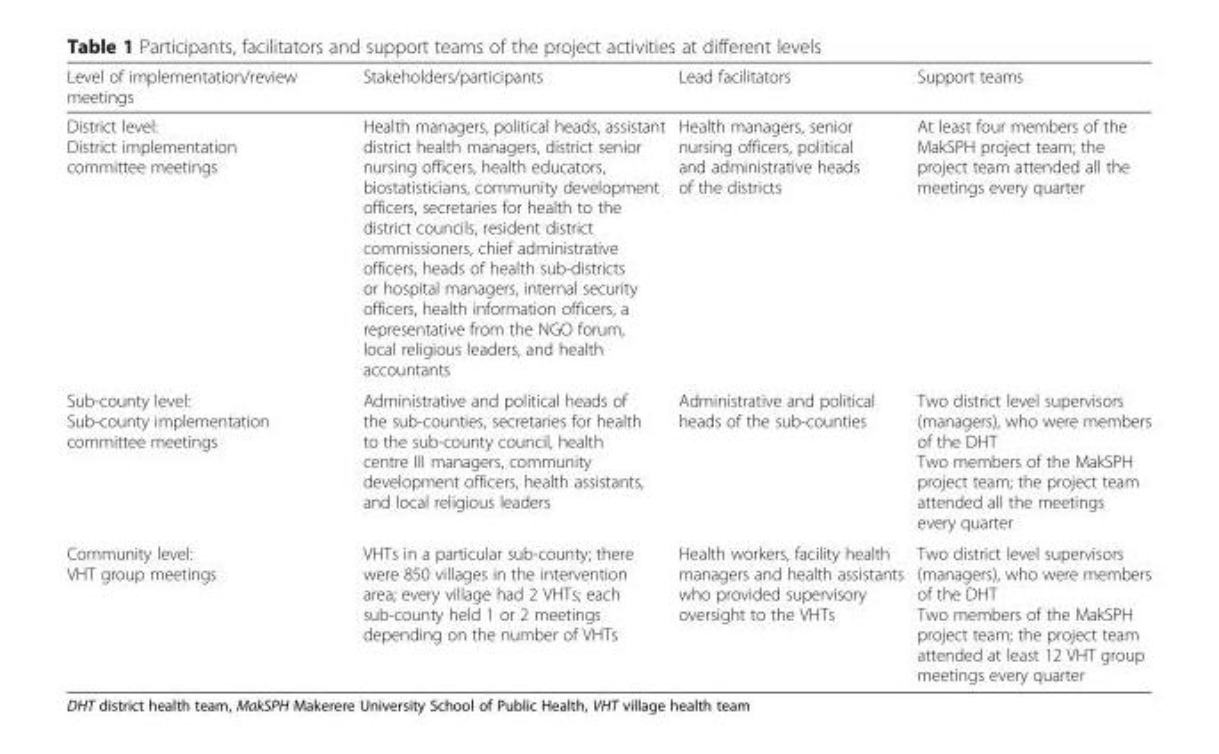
<table><thead><tr><td>Level of implementation/review meetings</td><td>Stakeholders/participants</td><td>Lead facilitators</td><td>Support teams</td></tr></thead><tbody><tr><td>District level: District implementation committee meetings</td><td>Health managers, political heads, assistant district health managers, district senior nursing officers, health educators, biostatisticians, community development officers, secretaries for health to the district councils, resident district commissioners, chief administrative officers, heads of health sub-districts or hospital managers, internal security officers, health information officers, a representative from the NGO forum, local religious leaders, and health accountants</td><td>Health managers, senior nursing officers, political and administrative heads of the districts</td><td>At least four members of the MakSPH project team; the project team attended all the meetings every quarter</td></tr><tr><td>Sub-county level: Sub-county implementation committee meetings</td><td>Administrative and political heads of the sub-counties, secretaries for health to the sub-county council, health centre III managers, community development officers, health assistants, and local religious leaders</td><td>Administrative and political heads of the sub-counties</td><td>Two district level supervisors (managers), who were members of the DHT Two members of the MakSPH project team; the project team attended all the meetings every quarter</td></tr><tr><td>Community level: VHT group meetings</td><td>VHTs in a particular sub-county; there were 850 villages in the intervention area; every village had 2 VHTs; each sub-county held 1 or 2 meetings depending on the number of VHTs</td><td>Health workers, facility health managers and health assistants who provided supervisory oversight to the VHTs</td><td>Two district level supervisors (managers), who were members of the DHT Two members of the MakSPH project team; the project team attended at least 12 VHT group meetings every quarter</td></tr></tbody></table>